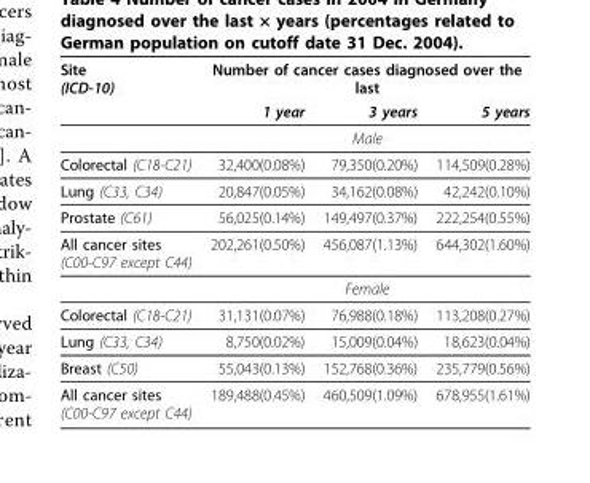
<table><thead><tr><td rowspan="2">Site (ICD-10)</td><td colspan="3">Number of cancer cases diagnosed over the last</td></tr><tr><td>1 year</td><td>3 years</td><td>5 years</td></tr></thead><tbody><tr><td></td><td colspan="3">Male</td></tr><tr><td>Colorectal (C18-C21)</td><td>32,400(0.08%)</td><td>79,350(0.20%)</td><td>114,509(0.28%)</td></tr><tr><td>Lung (C33, C34)</td><td>20,847(0.05%)</td><td>34,162(0.08%)</td><td>42,242(0.10%)</td></tr><tr><td>Prostate (C61)</td><td>56,025(0.14%)</td><td>149,497(0.37%)</td><td>222,254(0.55%)</td></tr><tr><td rowspan="2">All cancer sites (C00-C97 except C44)</td><td>202,261(0.50%)</td><td>456,087(1.13%)</td><td>644,302(1.60%)</td></tr><tr><td colspan="3">Female</td></tr><tr><td>Colorectal (C18-C21)</td><td>31,131(0.07%)</td><td>76,988(0.18%)</td><td>113,208(0.27%)</td></tr><tr><td>Lung (C33, C34)</td><td>8,750(0.02%)</td><td>15,009(0.04%)</td><td>18,623(0.04%)</td></tr><tr><td>Breast (C50)</td><td>55,043(0.13%)</td><td>152,768(0.36%)</td><td>235,779(0.56%)</td></tr><tr><td>All cancer sites (C00-C97 except C44)</td><td>189,488(0.45%)</td><td>460,509(1.09%)</td><td>678,955(1.61%)</td></tr></tbody></table>